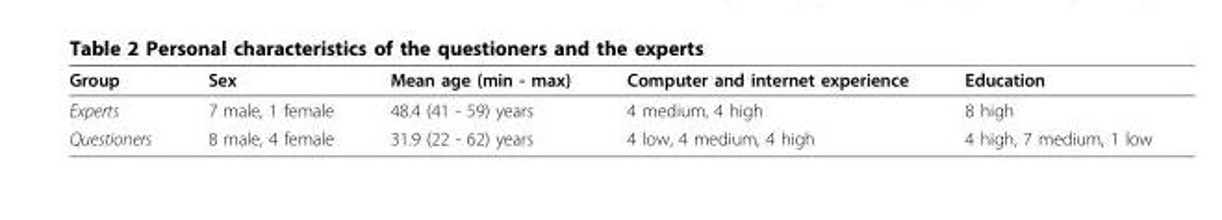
<table><thead><tr><td>Group</td><td>Sex</td><td>Mean age (min - max)</td><td>Computer and internet experience</td><td>Education</td></tr></thead><tbody><tr><td>Experts</td><td>7 male, 1 female</td><td>48.4 (41 - 59) years</td><td>4 medium, 4 high</td><td>8 high</td></tr><tr><td>Questioners</td><td>8 male, 4 female</td><td>31.9 (22 - 62) years</td><td>4 low, 4 medium, 4 high</td><td>4 high, 7 medium, 1 low</td></tr></tbody></table>